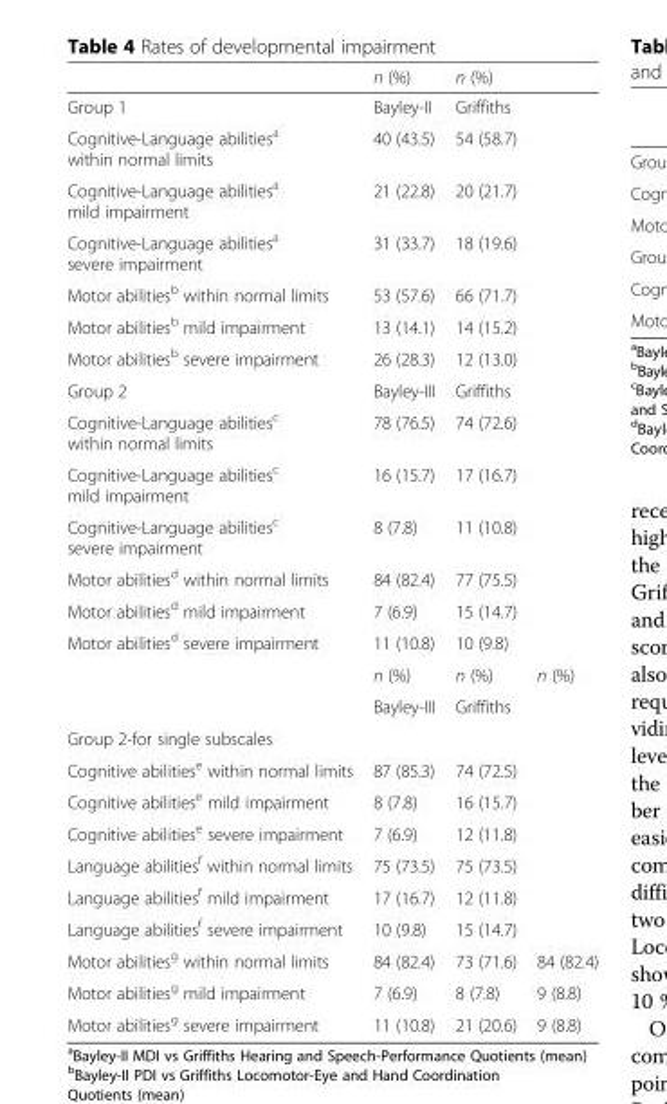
<table><thead><tr><td></td><td>n (%)</td><td colspan="2">n (%)</td></tr></thead><tbody><tr><td>Group 1</td><td>Bayley-II</td><td colspan="2">Griffiths</td></tr><tr><td>Cognitive-Language abilities<sup>a</sup> within normal limits</td><td>40 (43.5)</td><td colspan="2">54 (58.7)</td></tr><tr><td>Cognitive-Language abilities<sup>a</sup> mild impairment</td><td>21 (22.8)</td><td colspan="2">20 (21.7)</td></tr><tr><td>Cognitive-Language abilities<sup>a</sup> severe impairment</td><td>31 (33.7)</td><td colspan="2">18 (19.6)</td></tr><tr><td>Motor abilities<sup>b</sup> within normal limits</td><td>53 (57.6)</td><td colspan="2">66 (71.7)</td></tr><tr><td>Motor abilities<sup>b</sup> mild impairment</td><td>13 (14.1)</td><td colspan="2">14 (15.2)</td></tr><tr><td>Motor abilities<sup>b</sup> severe impairment</td><td>26 (28.3)</td><td colspan="2">12 (13.0)</td></tr><tr><td>Group 2</td><td>Bayley-III</td><td colspan="2">Griffiths</td></tr><tr><td>Cognitive-Language abilities<sup>c</sup> within normal limits</td><td>78 (76.5)</td><td colspan="2">74 (72.6)</td></tr><tr><td>Cognitive-Language abilities<sup>c</sup> mild impairment</td><td>16 (15.7)</td><td colspan="2">17 (16.7)</td></tr><tr><td>Cognitive-Language abilities<sup>c</sup> severe impairment</td><td>8 (7.8)</td><td colspan="2">11 (10.8)</td></tr><tr><td>Motor abilities<sup>d</sup> within normal limits</td><td>84 (82.4)</td><td colspan="2">77 (75.5)</td></tr><tr><td>Motor abilities<sup>d</sup> mild impairment</td><td>7 (6.9)</td><td colspan="2">15 (14.7)</td></tr><tr><td rowspan="3">Motor abilities<sup>d</sup> severe impairment</td><td>11 (10.8)</td><td colspan="2">10 (9.8)</td></tr><tr><td>n (%)</td><td>n (%)</td><td>n (%)</td></tr><tr><td>Bayley-III</td><td colspan="2">Griffiths</td></tr><tr><td colspan="4">Group 2-for single subscales</td></tr><tr><td>Cognitive abilities<sup>e</sup> within normal limits</td><td>87 (85.3)</td><td>74 (72.5)</td><td></td></tr><tr><td>Cognitive abilities<sup>e</sup> mild impairment</td><td>8 (7.8)</td><td>16 (15.7)</td><td></td></tr><tr><td>Cognitive abilities<sup>e</sup> severe impairment</td><td>7 (6.9)</td><td>12 (11.8)</td><td></td></tr><tr><td>Language abilities<sup>f</sup> within normal limits</td><td>75 (73.5)</td><td>75 (73.5)</td><td></td></tr><tr><td>Language abilities<sup>f</sup> mild impairment</td><td>17 (16.7)</td><td>12 (11.8)</td><td></td></tr><tr><td>Language abilities<sup>f</sup> severe impairment</td><td>10 (9.8)</td><td>15 (14.7)</td><td></td></tr><tr><td>Motor abilities<sup>g</sup> within normal limits</td><td>84 (82.4)</td><td>73 (71.6)</td><td>84 (82.4)</td></tr><tr><td>Motor abilities<sup>g</sup> mild impairment</td><td>7 (6.9)</td><td>8 (7.8)</td><td>9 (8.8)</td></tr><tr><td>Motor abilities<sup>g</sup> severe impairment</td><td>11 (10.8)</td><td>21 (20.6)</td><td>9 (8.8)</td></tr></tbody></table>